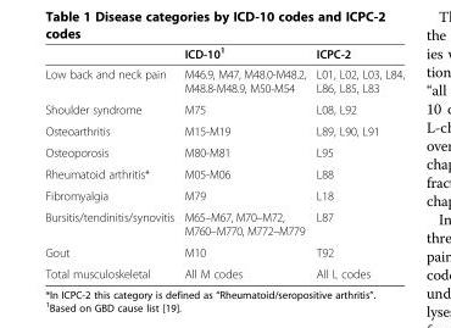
<table><thead><tr><td></td><td>ICD-10<sup>1</sup></td><td>ICPC-2</td></tr></thead><tbody><tr><td>Low back and neck pain</td><td>M46.9, M47, M48.0-M48.2, M48.8-M48.9, M50-M54</td><td>L01, L02, L03, L84, L86, L85, L83</td></tr><tr><td>Shoulder syndrome</td><td>M75</td><td>L08, L92</td></tr><tr><td>Osteoarthritis</td><td>M15-M19</td><td>L89, L90, L91</td></tr><tr><td>Osteoporosis</td><td>M80-M81</td><td>L95</td></tr><tr><td>Rheumatoid arthritis*</td><td>M05-M06</td><td>L88</td></tr><tr><td>Fibromyalgia</td><td>M79</td><td>L18</td></tr><tr><td>Bursitis/tendinitis/synovitis</td><td>M65–M67, M70–M72, M760–M770, M772–M779</td><td>L87</td></tr><tr><td>Gout</td><td>M10</td><td>T92</td></tr><tr><td>Total musculoskeletal</td><td>All M codes</td><td>All L codes</td></tr></tbody></table>